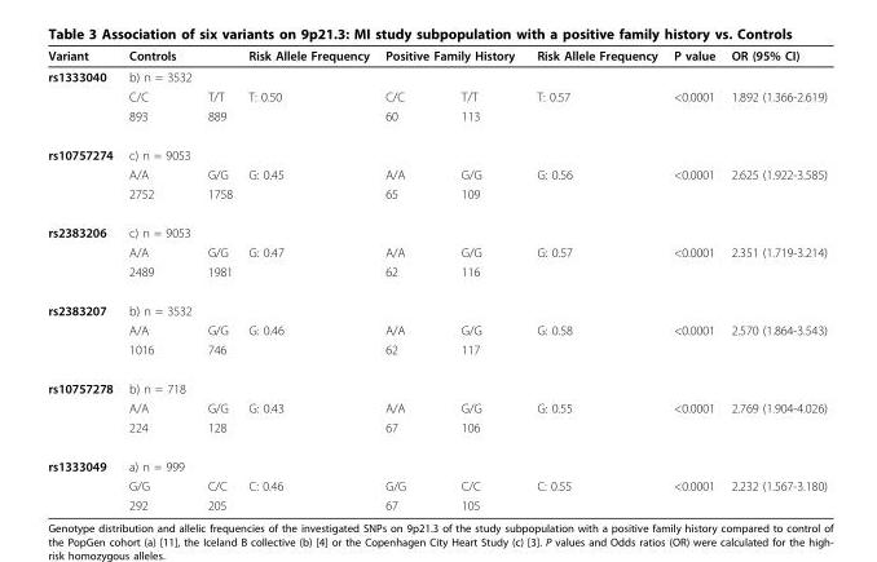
<table><thead><tr><td rowspan="2">Variant rs1333040</td><td rowspan="2">Controls b) n = 3532</td><td rowspan="2"></td><td rowspan="2">Risk Allele Frequency</td><td colspan="2">Positive Family History</td><td rowspan="2">Risk Allele Frequency</td><td rowspan="2">P value</td><td rowspan="2">OR (95% CI)</td></tr><tr><td></td><td></td></tr></thead><tbody><tr><td></td><td>C/C</td><td>T/T</td><td>T: 0.50</td><td>C/C</td><td>T/T</td><td>T: 0.57</td><td>&lt;0.0001</td><td>1.892 (1.366-2.619)</td></tr><tr><td></td><td>893</td><td>889</td><td></td><td>60</td><td>113</td><td></td><td></td><td></td></tr><tr><td rowspan="3">rs10757274</td><td>c) n = 9053</td><td></td><td></td><td></td><td></td><td></td><td></td><td></td></tr><tr><td>A/A</td><td>G/G</td><td>G: 0.45</td><td>A/A</td><td>G/G</td><td>G: 0.56</td><td>&lt;0.0001</td><td>2.625 (1.922-3.585)</td></tr><tr><td>2752</td><td>1758</td><td></td><td>65</td><td>109</td><td></td><td></td><td></td></tr><tr><td rowspan="3">rs2383206</td><td>c) n = 9053</td><td></td><td></td><td></td><td></td><td></td><td></td><td></td></tr><tr><td>A/A</td><td>G/G</td><td>G: 0.47</td><td>A/A</td><td>G/G</td><td>G: 0.57</td><td>&lt;0.0001</td><td>2.351 (1.719-3.214)</td></tr><tr><td>2489</td><td>1981</td><td></td><td>62</td><td>116</td><td></td><td></td><td></td></tr><tr><td rowspan="3">rs2383207</td><td>b) n = 3532</td><td></td><td></td><td></td><td></td><td></td><td></td><td></td></tr><tr><td>A/A</td><td>G/G</td><td>G: 0.46</td><td>A/A</td><td>G/G</td><td>G: 0.58</td><td>&lt;0.0001</td><td>2.570 (1.864-3.543)</td></tr><tr><td>1016</td><td>746</td><td></td><td>62</td><td>117</td><td></td><td></td><td></td></tr><tr><td rowspan="3">rs10757278</td><td>b) n = 718</td><td></td><td></td><td></td><td></td><td></td><td></td><td></td></tr><tr><td>A/A</td><td>G/G</td><td>G: 0.43</td><td>A/A</td><td>G/G</td><td>G: 0.55</td><td>&lt;0.0001</td><td>2.769 (1.904-4.026)</td></tr><tr><td>224</td><td>128</td><td></td><td>67</td><td>106</td><td></td><td></td><td></td></tr><tr><td rowspan="3">rs1333049</td><td>a) n = 999</td><td></td><td></td><td></td><td></td><td></td><td></td><td></td></tr><tr><td>G/G</td><td>C/C</td><td>C: 0.46</td><td>G/G</td><td>C/C</td><td>C: 0.55</td><td>&lt;0.0001</td><td>2.232 (1.567-3.180)</td></tr><tr><td>292</td><td>205</td><td></td><td>67</td><td>105</td><td></td><td></td><td></td></tr></tbody></table>